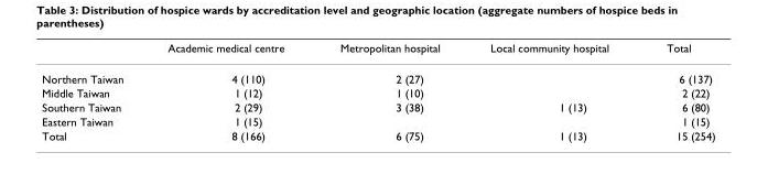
<table><thead><tr><td></td><td>Academic medical centre</td><td>Metropolitan hospital</td><td>Local community hospital</td><td>Total</td></tr></thead><tbody><tr><td>Northern Taiwan</td><td>4 (110)</td><td>2 (27)</td><td></td><td>6 (137)</td></tr><tr><td>Middle Taiwan</td><td>1 (12)</td><td>1 (10)</td><td></td><td>2 (22)</td></tr><tr><td>Southern Taiwan</td><td>2 (29)</td><td>3 (38)</td><td>1 (13)</td><td>6 (80)</td></tr><tr><td>Eastern Taiwan</td><td>1 (15)</td><td></td><td></td><td>1 (15)</td></tr><tr><td>Total</td><td>8 (166)</td><td>6 (75)</td><td>1 (13)</td><td>15 (254)</td></tr></tbody></table>